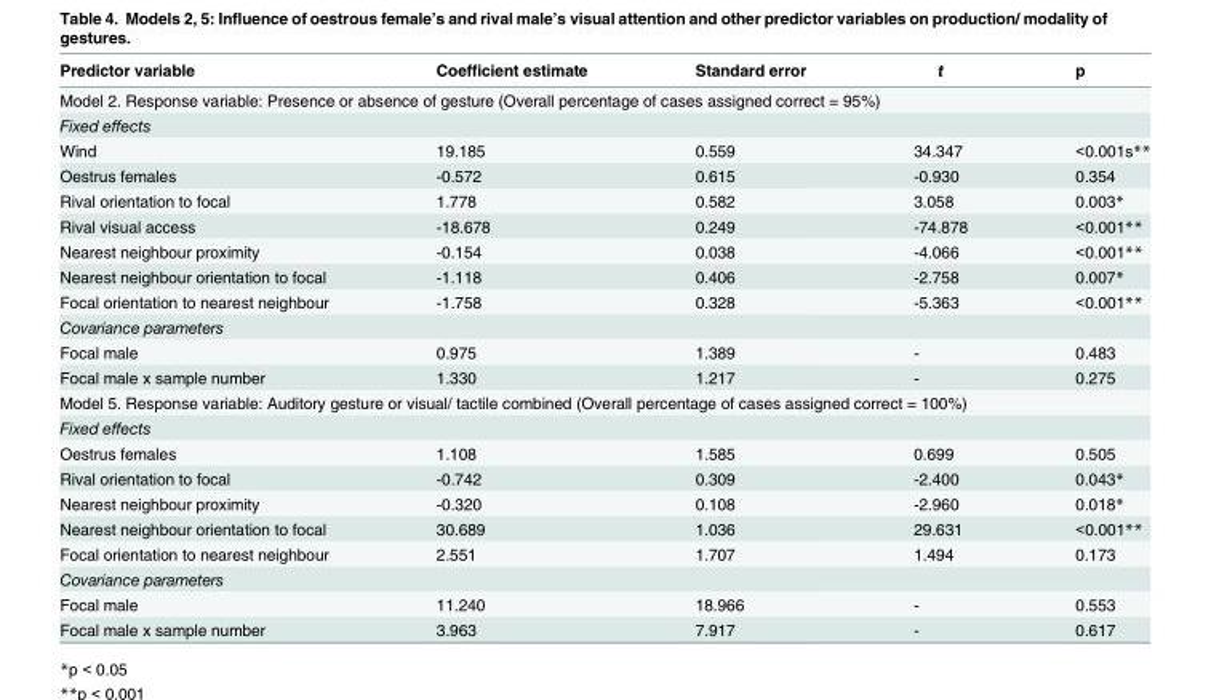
<table><thead><tr><td>Predictor variable</td><td>Coefficient estimate</td><td>Standard error</td><td>t</td><td>p</td></tr></thead><tbody><tr><td colspan="5">Model 2. Response variable: Presence or absence of gesture (Overall percentage of cases assigned correct = 95%)</td></tr><tr><td colspan="5">Fixed effects</td></tr><tr><td>Wind</td><td>19.185</td><td>0.559</td><td>34.347</td><td>&lt;0.001s**</td></tr><tr><td>Oestrus females</td><td>-0.572</td><td>0.615</td><td>-0.930</td><td>0.354</td></tr><tr><td>Rival orientation to focal</td><td>1.778</td><td>0.582</td><td>3.058</td><td>0.003*</td></tr><tr><td>Rival visual access</td><td>-18.678</td><td>0.249</td><td>-74.878</td><td>&lt;0.001**</td></tr><tr><td>Nearest neighbour proximity</td><td>-0.154</td><td>0.038</td><td>-4.066</td><td>&lt;0.001**</td></tr><tr><td>Nearest neighbour orientation to focal</td><td>-1.118</td><td>0.406</td><td>-2.758</td><td>0.007*</td></tr><tr><td>Focal orientation to nearest neighbour</td><td>-1.758</td><td>0.328</td><td>-5.363</td><td>&lt;0.001**</td></tr><tr><td colspan="5">Covariance parameters</td></tr><tr><td>Focal male</td><td>0.975</td><td>1.389</td><td>-</td><td>0.483</td></tr><tr><td>Focal male x sample number</td><td>1.330</td><td>1.217</td><td>-</td><td>0.275</td></tr><tr><td colspan="5">Model 5. Response variable: Auditory gesture or visual/ tactile combined (Overall percentage of cases assigned correct = 100%)</td></tr><tr><td colspan="5">Fixed effects</td></tr><tr><td>Oestrus females</td><td>1.108</td><td>1.585</td><td>0.699</td><td>0.505</td></tr><tr><td>Rival orientation to focal</td><td>-0.742</td><td>0.309</td><td>-2.400</td><td>0.043*</td></tr><tr><td>Nearest neighbour proximity</td><td>-0.320</td><td>0.108</td><td>-2.960</td><td>0.018*</td></tr><tr><td>Nearest neighbour orientation to focal</td><td>30.689</td><td>1.036</td><td>29.631</td><td>&lt;0.001**</td></tr><tr><td>Focal orientation to nearest neighbour</td><td>2.551</td><td>1.707</td><td>1.494</td><td>0.173</td></tr><tr><td colspan="5">Covariance parameters</td></tr><tr><td>Focal male</td><td>11.240</td><td>18.966</td><td>-</td><td>0.553</td></tr><tr><td>Focal male x sample number</td><td>3.963</td><td>7.917</td><td>-</td><td>0.617</td></tr></tbody></table>